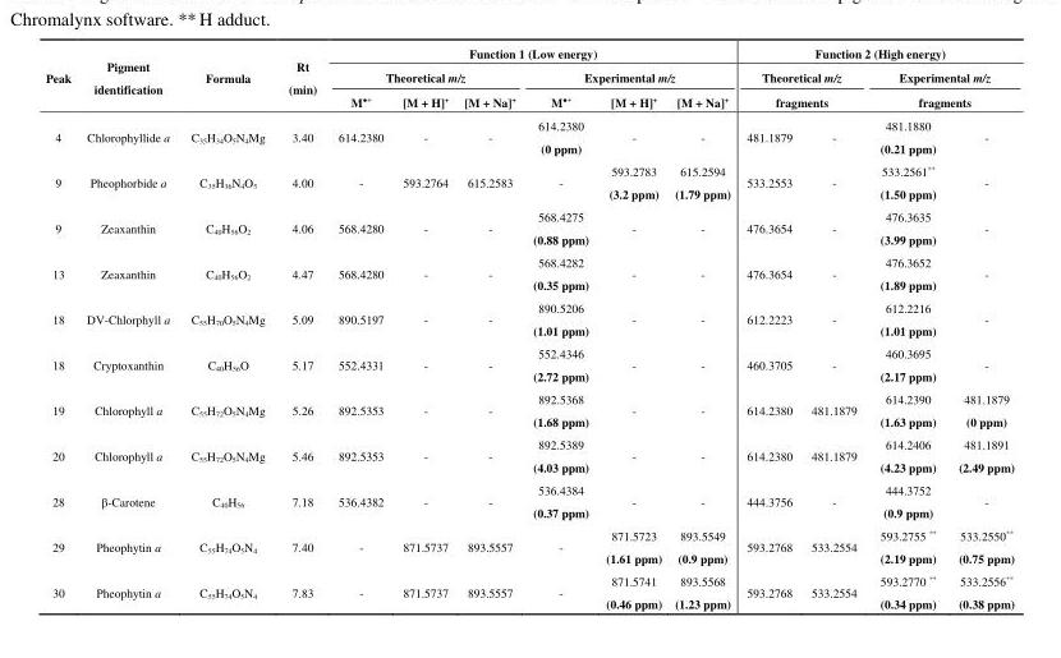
<table><thead><tr><td rowspan="4">Peak 4</td><td rowspan="4">Pigment identification Chlorophyllide a</td><td rowspan="4">Formula C<sub>35</sub>H<sub>34</sub>O<sub>5</sub>N<sub>4</sub>Mg</td><td rowspan="4">Rt (min) 3.40</td><td colspan="6">Function 1 (Low energy)</td><td colspan="4">Function 2 (High energy)</td></tr><tr><td colspan="3">Theoretical m/z</td><td colspan="3">Experimental m/z</td><td rowspan="2" colspan="2">Theoretical m/z fragments</td><td rowspan="2" colspan="2">Experimental m/z fragments</td></tr><tr><td rowspan="2">M<sup>●+</sup> 614.2380</td><td rowspan="2">[M + H]<sup>+</sup> -</td><td rowspan="2">[M + Na]<sup>+</sup> -</td><td rowspan="2">M<sup>●+</sup> 614.2380 (0 ppm)</td><td rowspan="2">[M + H]<sup>+</sup> -</td><td rowspan="2">[M + Na]<sup>+</sup> -</td></tr><tr><td>481.1879</td><td>-</td><td>481.1880 (0.21 ppm)</td><td>-</td></tr></thead><tbody><tr><td>9</td><td>Pheophorbide a</td><td>C<sub>35</sub>H<sub>36</sub>N<sub>4</sub>O<sub>5</sub></td><td>4.00</td><td>-</td><td>593.2764</td><td>615.2583</td><td>-</td><td>593.2783 (3.2 ppm)</td><td>615.2594 (1.79 ppm)</td><td>533.2553</td><td>-</td><td>533.2561** (1.50 ppm)</td><td>-</td></tr><tr><td>9</td><td>Zeaxanthin</td><td>C<sub>40</sub>H<sub>56</sub>O<sub>2</sub></td><td>4.06</td><td>568.4280</td><td>-</td><td>-</td><td>568.4275 (0.88 ppm)</td><td>-</td><td>-</td><td>476.3654</td><td>-</td><td>476.3635 (3.99 ppm)</td><td>-</td></tr><tr><td>13</td><td>Zeaxanthin</td><td>C<sub>40</sub>H<sub>56</sub>O<sub>2</sub></td><td>4.47</td><td>568.4280</td><td>-</td><td>-</td><td>568.4282 (0.35 ppm)</td><td>-</td><td>-</td><td>476.3654</td><td>-</td><td>476.3652 (1.89 ppm)</td><td>-</td></tr><tr><td>18</td><td>DV-Chlorphyll a</td><td>C<sub>55</sub>H<sub>70</sub>O<sub>5</sub>N<sub>4</sub>Mg</td><td>5.09</td><td>890.5197</td><td>-</td><td>-</td><td>890.5206 (1.01 ppm)</td><td>-</td><td>-</td><td>612.2223</td><td>-</td><td>612.2216 (1.01 ppm)</td><td>-</td></tr><tr><td>18</td><td>Cryptoxanthin</td><td>C<sub>40</sub>H<sub>56</sub>O</td><td>5.17</td><td>552.4331</td><td>-</td><td>-</td><td>552.4346 (2.72 ppm)</td><td>-</td><td>-</td><td>460.3705</td><td>-</td><td>460.3695 (2.17 ppm)</td><td>-</td></tr><tr><td>19</td><td>Chlorophyll a</td><td>C<sub>55</sub>H<sub>72</sub>O<sub>5</sub>N<sub>4</sub>Mg</td><td>5.26</td><td>892.5353</td><td>-</td><td>-</td><td>892.5368 (1.68 ppm)</td><td>-</td><td>-</td><td>614.2380</td><td>481.1879</td><td>614.2390 (1.63 ppm)</td><td>481.1879 (0 ppm)</td></tr><tr><td>20</td><td>Chlorophyll a</td><td>C<sub>55</sub>H<sub>72</sub>O<sub>5</sub>N<sub>4</sub>Mg</td><td>5.46</td><td>892.5353</td><td>-</td><td>-</td><td>892.5389 (4.03 ppm)</td><td>-</td><td>-</td><td>614.2380</td><td>481.1879</td><td>614.2406 (4.23 ppm)</td><td>481.1891 (2.49 ppm)</td></tr><tr><td>28</td><td>β-Carotene</td><td>C<sub>40</sub>H<sub>56</sub></td><td>7.18</td><td>536.4382</td><td>-</td><td>-</td><td>536.4384 (0.37 ppm)</td><td>-</td><td>-</td><td>444.3756</td><td>-</td><td>444.3752 (0.9 ppm)</td><td>-</td></tr><tr><td>29</td><td>Pheophytin a</td><td>C<sub>55</sub>H<sub>74</sub>O<sub>5</sub>N<sub>4</sub></td><td>7.40</td><td>-</td><td>871.5737</td><td>893.5557</td><td>-</td><td>871.5723 (1.61 ppm)</td><td>893.5549 (0.9 ppm)</td><td>593.2768</td><td>533.2554</td><td>593.2755 ** (2.19 ppm)</td><td>533.2550** (0.75 ppm)</td></tr><tr><td>30</td><td>Pheophytin a</td><td>C<sub>55</sub>H<sub>74</sub>O<sub>5</sub>N<sub>4</sub></td><td>7.83</td><td>-</td><td>871.5737</td><td>893.5557</td><td>-</td><td>871.5741 (0.46 ppm)</td><td>893.5568 (1.23 ppm)</td><td>593.2768</td><td>533.2554</td><td>593.2770 ** (0.34 ppm)</td><td>533.2556** (0.38 ppm)</td></tr></tbody></table>